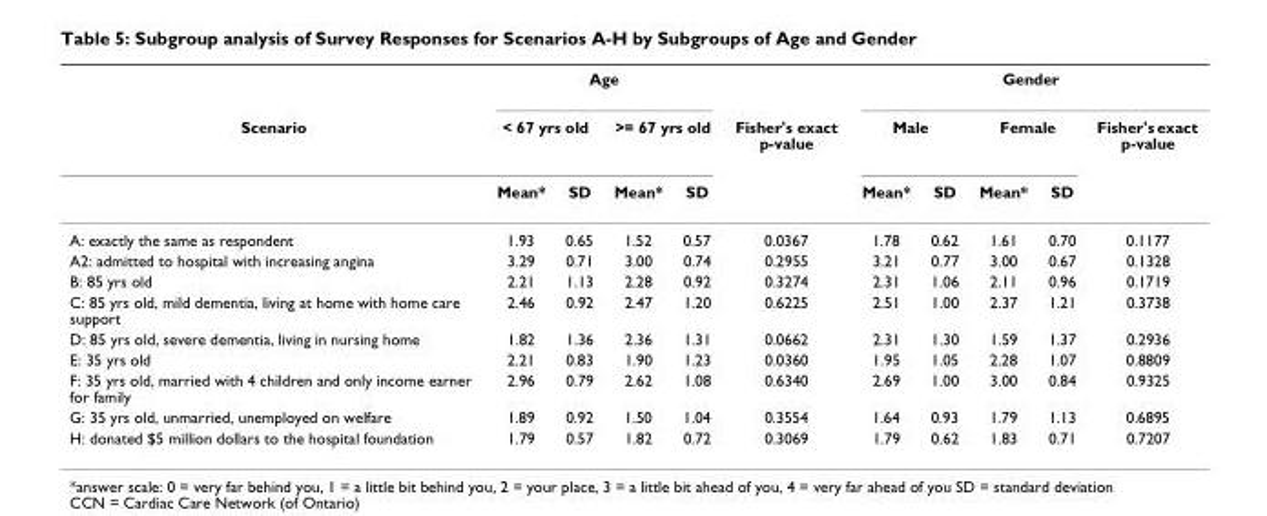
<table><thead><tr><td rowspan="3">Scenario</td><td colspan="4">Age</td><td rowspan="3">Fisher&#x27;s exact p-value</td><td colspan="5">Gender</td></tr><tr><td colspan="2">&lt; 67 yrs old</td><td colspan="2">&gt;= 67 yrs old</td><td colspan="2">Male</td><td colspan="2">Female</td><td rowspan="2">Fisher&#x27;s exact p-value</td></tr><tr><td>Mean*</td><td>SD</td><td>Mean*</td><td>SD</td><td>Mean*</td><td>SD</td><td>Mean*</td><td>SD</td></tr></thead><tbody><tr><td>A: exactly the same as respondent</td><td>1.93</td><td>0.65</td><td>1.52</td><td>0.57</td><td>0.0367</td><td>1.78</td><td>0.62</td><td>1.61</td><td>0.70</td><td>0.1177</td></tr><tr><td>A2: admitted to hospital with increasing angina</td><td>3.29</td><td>0.71</td><td>3.00</td><td>0.74</td><td>0.2955</td><td>3.21</td><td>0.77</td><td>3.00</td><td>0.67</td><td>0.1328</td></tr><tr><td>B: 85 yrs old</td><td>2.21</td><td>1.13</td><td>2.28</td><td>0.92</td><td>0.3274</td><td>2.31</td><td>1.06</td><td>2.11</td><td>0.96</td><td>0.1719</td></tr><tr><td>C: 85 yrs old, mild dementia, living at home with home care support</td><td>2.46</td><td>0.92</td><td>2.47</td><td>1.20</td><td>0.6225</td><td>2.51</td><td>1.00</td><td>2.37</td><td>1.21</td><td>0.3738</td></tr><tr><td>D: 85 yrs old, severe dementia, living in nursing home</td><td>1.82</td><td>1.36</td><td>2.36</td><td>1.31</td><td>0.0662</td><td>2.31</td><td>1.30</td><td>1.59</td><td>1.37</td><td>0.2936</td></tr><tr><td>E: 35 yrs old</td><td>2.21</td><td>0.83</td><td>1.90</td><td>1.23</td><td>0.0360</td><td>1.95</td><td>1.05</td><td>2.28</td><td>1.07</td><td>0.8809</td></tr><tr><td>F: 35 yrs old, married with 4 children and only income earner for family</td><td>2.96</td><td>0.79</td><td>2.62</td><td>1.08</td><td>0.6340</td><td>2.69</td><td>1.00</td><td>3.00</td><td>0.84</td><td>0.9325</td></tr><tr><td>G: 35 yrs old, unmarried, unemployed on welfare</td><td>1.89</td><td>0.92</td><td>1.50</td><td>1.04</td><td>0.3554</td><td>1.64</td><td>0.93</td><td>1.79</td><td>1.13</td><td>0.6895</td></tr><tr><td>H: donated $5 million dollars to the hospital foundation</td><td>1.79</td><td>0.57</td><td>1.82</td><td>0.72</td><td>0.3069</td><td>1.79</td><td>0.62</td><td>1.83</td><td>0.71</td><td>0.7207</td></tr></tbody></table>